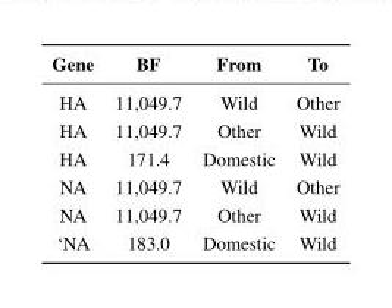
<table><thead><tr><td>Gene</td><td>BF</td><td>From</td><td>To</td></tr></thead><tbody><tr><td>HA</td><td>11,049.7</td><td>Wild</td><td>Other</td></tr><tr><td>HA</td><td>11,049.7</td><td>Other</td><td>Wild</td></tr><tr><td>HA</td><td>171.4</td><td>Domestic</td><td>Wild</td></tr><tr><td>NA</td><td>11,049.7</td><td>Wild</td><td>Other</td></tr><tr><td>NA</td><td>11,049.7</td><td>Other</td><td>Wild</td></tr><tr><td>‘NA</td><td>183.0</td><td>Domestic</td><td>Wild</td></tr></tbody></table>